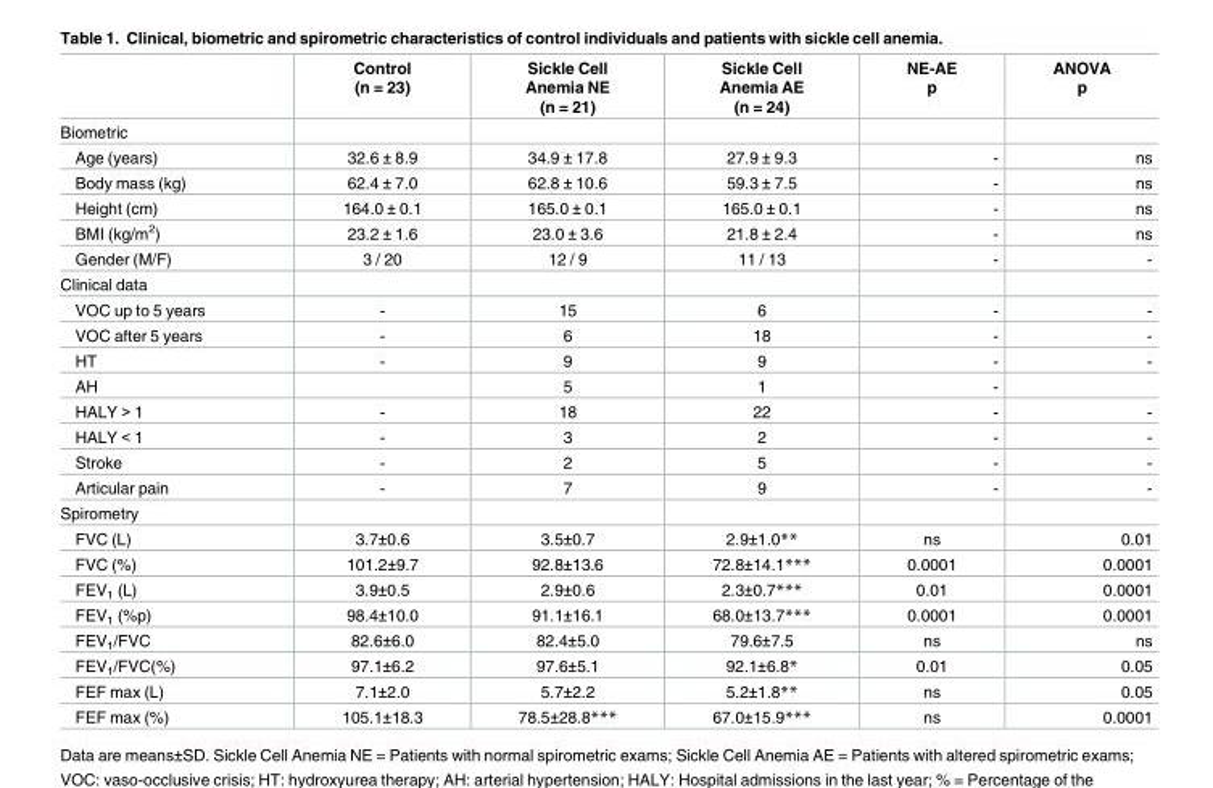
<table><thead><tr><td></td><td>Control (n = 23)</td><td>Sickle Cell Anemia NE (n = 21)</td><td>Sickle Cell Anemia AE (n = 24)</td><td>NE-AE p</td><td>ANOVA p</td></tr></thead><tbody><tr><td colspan="6">Biometric</td></tr><tr><td>Age (years)</td><td>32.6 ± 8.9</td><td>34.9 ± 17.8</td><td>27.9 ± 9.3</td><td>-</td><td>ns</td></tr><tr><td>Body mass (kg)</td><td>62.4 ± 7.0</td><td>62.8 ± 10.6</td><td>59.3 ± 7.5</td><td>-</td><td>ns</td></tr><tr><td>Height (cm)</td><td>164.0 ± 0.1</td><td>165.0 ± 0.1</td><td>165.0 ± 0.1</td><td>-</td><td>ns</td></tr><tr><td>BMI (kg/m<sup>2</sup>)</td><td>23.2 ± 1.6</td><td>23.0 ± 3.6</td><td>21.8 ± 2.4</td><td>-</td><td>ns</td></tr><tr><td>Gender (M/F)</td><td>3 / 20</td><td>12 / 9</td><td>11 / 13</td><td>-</td><td>-</td></tr><tr><td colspan="6">Clinical data</td></tr><tr><td>VOC up to 5 years</td><td>-</td><td>15</td><td>6</td><td>-</td><td>-</td></tr><tr><td>VOC after 5 years</td><td>-</td><td>6</td><td>18</td><td>-</td><td>-</td></tr><tr><td>HT</td><td>-</td><td>9</td><td>9</td><td>-</td><td>-</td></tr><tr><td>AH</td><td></td><td>5</td><td>1</td><td>-</td><td></td></tr><tr><td>HALY &gt; 1</td><td>-</td><td>18</td><td>22</td><td>-</td><td>-</td></tr><tr><td>HALY &lt; 1</td><td>-</td><td>3</td><td>2</td><td>-</td><td>-</td></tr><tr><td>Stroke</td><td>-</td><td>2</td><td>5</td><td>-</td><td>-</td></tr><tr><td>Articular pain</td><td>-</td><td>7</td><td>9</td><td>-</td><td>-</td></tr><tr><td colspan="6">Spirometry</td></tr><tr><td>FVC (L)</td><td>3.7±0.6</td><td>3.5±0.7</td><td>2.9±1.0**</td><td>ns</td><td>0.01</td></tr><tr><td>FVC (%)</td><td>101.2±9.7</td><td>92.8±13.6</td><td>72.8±14.1***</td><td>0.0001</td><td>0.0001</td></tr><tr><td>FEV<sub>1</sub> (L)</td><td>3.9±0.5</td><td>2.9±0.6</td><td>2.3±0.7***</td><td>0.01</td><td>0.0001</td></tr><tr><td>FEV<sub>1</sub> (%p)</td><td>98.4±10.0</td><td>91.1±16.1</td><td>68.0±13.7***</td><td>0.0001</td><td>0.0001</td></tr><tr><td>FEV<sub>1</sub>/FVC</td><td>82.6±6.0</td><td>82.4±5.0</td><td>79.6±7.5</td><td>ns</td><td>ns</td></tr><tr><td>FEV<sub>1</sub>/FVC(%)</td><td>97.1±6.2</td><td>97.6±5.1</td><td>92.1±6.8*</td><td>0.01</td><td>0.05</td></tr><tr><td>FEF max (L)</td><td>7.1±2.0</td><td>5.7±2.2</td><td>5.2±1.8**</td><td>ns</td><td>0.05</td></tr><tr><td>FEF max (%)</td><td>105.1±18.3</td><td>78.5±28.8***</td><td>67.0±15.9***</td><td>ns</td><td>0.0001</td></tr></tbody></table>